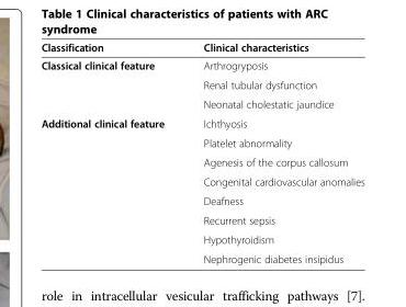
<table><thead><tr><td>Classification</td><td>Clinical characteristics</td></tr></thead><tbody><tr><td rowspan="3">Classical clinical feature</td><td>Arthrogryposis</td></tr><tr><td>Renal tubular dysfunction</td></tr><tr><td>Neonatal cholestatic jaundice</td></tr><tr><td rowspan="8">Additional clinical feature</td><td>Ichthyosis</td></tr><tr><td>Platelet abnormality</td></tr><tr><td>Agenesis of the corpus callosum</td></tr><tr><td>Congenital cardiovascular anomalies</td></tr><tr><td>Deafness</td></tr><tr><td>Recurrent sepsis</td></tr><tr><td>Hypothyroidism</td></tr><tr><td>Nephrogenic diabetes insipidus</td></tr></tbody></table>